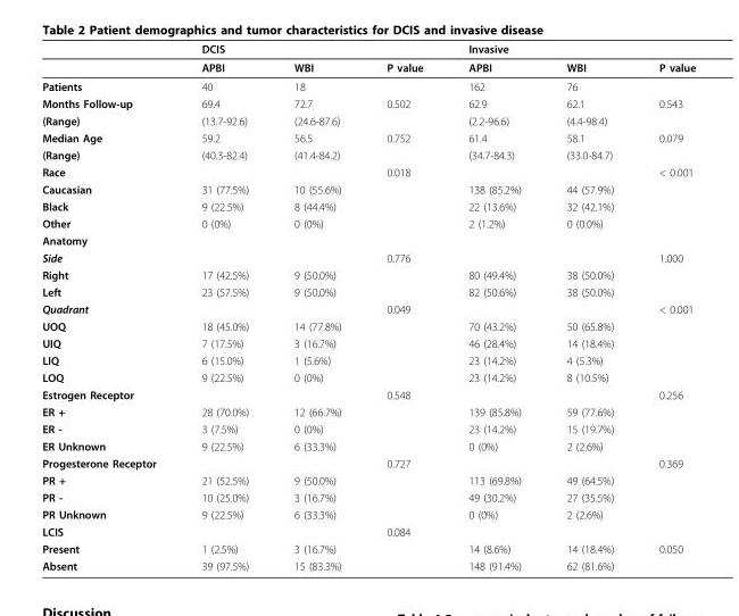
<table><thead><tr><td></td><td>DCIS</td><td></td><td></td><td>Invasive</td><td></td><td></td></tr></thead><tbody><tr><td></td><td>APBI</td><td>WBI</td><td>P value</td><td>APBI</td><td>WBI</td><td>P value</td></tr><tr><td>Patients</td><td>40</td><td>18</td><td></td><td>162</td><td>76</td><td></td></tr><tr><td>Months Follow-up</td><td>69.4</td><td>72.7</td><td>0.502</td><td>62.9</td><td>62.1</td><td>0.543</td></tr><tr><td>(Range)</td><td>(13.7-92.6)</td><td>(24.6-87.6)</td><td></td><td>(2.2-96.6)</td><td>(4.4-98.4)</td><td></td></tr><tr><td>Median Age</td><td>59.2</td><td>56.5</td><td>0.752</td><td>61.4</td><td>58.1</td><td>0.079</td></tr><tr><td>(Range)</td><td>(40.3-82.4)</td><td>(41.4-84.2)</td><td></td><td>(34.7-84.3)</td><td>(33.0-84.7)</td><td></td></tr><tr><td>Race</td><td></td><td></td><td>0.018</td><td></td><td></td><td>&lt; 0.001</td></tr><tr><td>Caucasian</td><td>31 (77.5%)</td><td>10 (55.6%)</td><td></td><td>138 (85.2%)</td><td>44 (57.9%)</td><td></td></tr><tr><td>Black</td><td>9 (22.5%)</td><td>8 (44.4%)</td><td></td><td>22 (13.6%)</td><td>32 (42.1%)</td><td></td></tr><tr><td>Other</td><td>0 (0%)</td><td>0 (0%)</td><td></td><td>2 (1.2%)</td><td>0 (0.0%)</td><td></td></tr><tr><td colspan="7">Anatomy</td></tr><tr><td>Side</td><td></td><td></td><td>0.776</td><td></td><td></td><td>1.000</td></tr><tr><td>Right</td><td>17 (42.5%)</td><td>9 (50.0%)</td><td></td><td>80 (49.4%)</td><td>38 (50.0%)</td><td></td></tr><tr><td>Left</td><td>23 (57.5%)</td><td>9 (50.0%)</td><td></td><td>82 (50.6%)</td><td>38 (50.0%)</td><td></td></tr><tr><td>Quadrant</td><td></td><td></td><td>0.049</td><td></td><td></td><td>&lt; 0.001</td></tr><tr><td>UOQ</td><td>18 (45.0%)</td><td>14 (77.8%)</td><td></td><td>70 (43.2%)</td><td>50 (65.8%)</td><td></td></tr><tr><td>UIQ</td><td>7 (17.5%)</td><td>3 (16.7%)</td><td></td><td>46 (28.4%)</td><td>14 (18.4%)</td><td></td></tr><tr><td>LIQ</td><td>6 (15.0%)</td><td>1 (5.6%)</td><td></td><td>23 (14.2%)</td><td>4 (5.3%)</td><td></td></tr><tr><td>LOQ</td><td>9 (22.5%)</td><td>0 (0%)</td><td></td><td>23 (14.2%)</td><td>8 (10.5%)</td><td></td></tr><tr><td>Estrogen Receptor</td><td></td><td></td><td>0.548</td><td></td><td></td><td>0.256</td></tr><tr><td>ER +</td><td>28 (70.0%)</td><td>12 (66.7%)</td><td></td><td>139 (85.8%)</td><td>59 (77.6%)</td><td></td></tr><tr><td>ER -</td><td>3 (7.5%)</td><td>0 (0%)</td><td></td><td>23 (14.2%)</td><td>15 (19.7%)</td><td></td></tr><tr><td>ER Unknown</td><td>9 (22.5%)</td><td>6 (33.3%)</td><td></td><td>0 (0%)</td><td>2 (2.6%)</td><td></td></tr><tr><td>Progesterone Receptor</td><td></td><td></td><td>0.727</td><td></td><td></td><td>0.369</td></tr><tr><td>PR +</td><td>21 (52.5%)</td><td>9 (50.0%)</td><td></td><td>113 (69.8%)</td><td>49 (64.5%)</td><td></td></tr><tr><td>PR -</td><td>10 (25.0%)</td><td>3 (16.7%)</td><td></td><td>49 (30.2%)</td><td>27 (35.5%)</td><td></td></tr><tr><td>PR Unknown</td><td>9 (22.5%)</td><td>6 (33.3%)</td><td></td><td>0 (0%)</td><td>2 (2.6%)</td><td></td></tr><tr><td>LCIS</td><td></td><td></td><td>0.084</td><td></td><td></td><td></td></tr><tr><td>Present</td><td>1 (2.5%)</td><td>3 (16.7%)</td><td></td><td>14 (8.6%)</td><td>14 (18.4%)</td><td>0.050</td></tr><tr><td>Absent</td><td>39 (97.5%)</td><td>15 (83.3%)</td><td></td><td>148 (91.4%)</td><td>62 (81.6%)</td><td></td></tr></tbody></table>